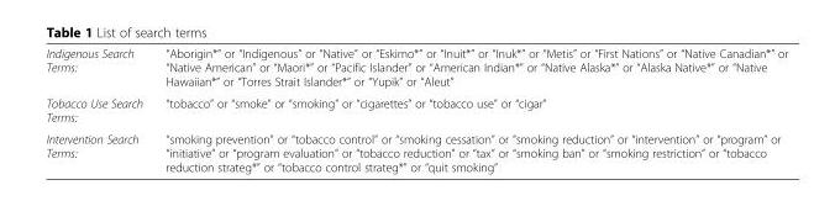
<table><tbody><tr><td>Indigenous Search Terms:</td><td>“Aborigin*” or “Indigenous” or “Native” or “Eskimo*” or “Inuit*” or “Inuk*” or “Metis” or “First Nations” or “Native Canadian*” or “Native American” or “Maori*” or “Pacific Islander” or “American Indian*” or “Native Alaska*” or “Alaska Native*” or “Native Hawaiian*” or “Torres Strait Islander*” or “Yupik” or “Aleut”</td></tr><tr><td>Tobacco Use Search Terms:</td><td>“tobacco” or “smoke” or “smoking” or “cigarettes” or “tobacco use” or “cigar”</td></tr><tr><td>Intervention Search Terms:</td><td>“smoking prevention” or “tobacco control” or “smoking cessation” or “smoking reduction” or “intervention” or “program” or “initiative” or “program evaluation” or “tobacco reduction” or “tax” or “smoking ban” or “smoking restriction” or “tobacco reduction strateg*” or “tobacco control strateg*” or “quit smoking”</td></tr></tbody></table>